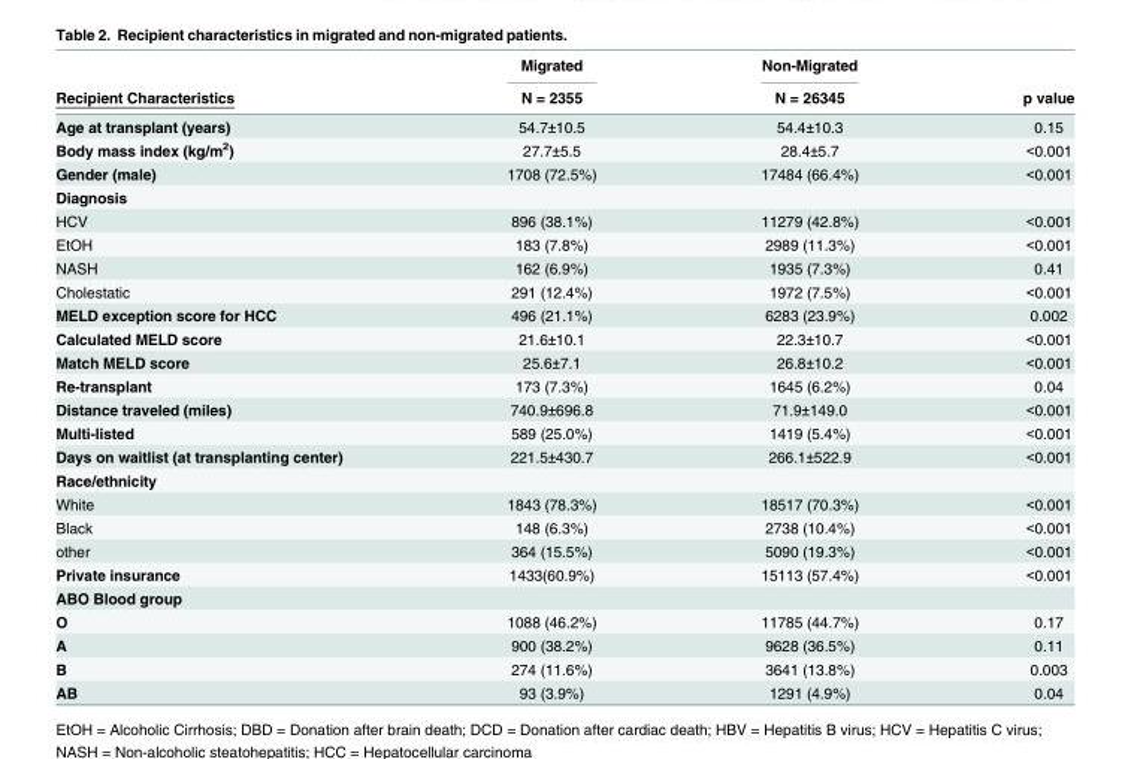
<table><thead><tr><td rowspan="2">Recipient Characteristics</td><td rowspan="2">Migrated N = 2355</td><td rowspan="2">Non-Migrated N = 26345</td><td rowspan="2">p value</td></tr><tr></tr></thead><tbody><tr><td>Age at transplant (years)</td><td>54.7±10.5</td><td>54.4±10.3</td><td>0.15</td></tr><tr><td>Body mass index (kg/m<sup>2</sup>)</td><td>27.7±5.5</td><td>28.4±5.7</td><td>&lt;0.001</td></tr><tr><td>Gender (male)</td><td>1708 (72.5%)</td><td>17484 (66.4%)</td><td>&lt;0.001</td></tr><tr><td colspan="4">Diagnosis</td></tr><tr><td>HCV</td><td>896 (38.1%)</td><td>11279 (42.8%)</td><td>&lt;0.001</td></tr><tr><td>EtOH</td><td>183 (7.8%)</td><td>2989 (11.3%)</td><td>&lt;0.001</td></tr><tr><td>NASH</td><td>162 (6.9%)</td><td>1935 (7.3%)</td><td>0.41</td></tr><tr><td>Cholestatic</td><td>291 (12.4%)</td><td>1972 (7.5%)</td><td>&lt;0.001</td></tr><tr><td>MELD exception score for HCC</td><td>496 (21.1%)</td><td>6283 (23.9%)</td><td>0.002</td></tr><tr><td>Calculated MELD score</td><td>21.6±10.1</td><td>22.3±10.7</td><td>&lt;0.001</td></tr><tr><td>Match MELD score</td><td>25.6±7.1</td><td>26.8±10.2</td><td>&lt;0.001</td></tr><tr><td>Re-transplant</td><td>173 (7.3%)</td><td>1645 (6.2%)</td><td>0.04</td></tr><tr><td>Distance traveled (miles)</td><td>740.9±696.8</td><td>71.9±149.0</td><td>&lt;0.001</td></tr><tr><td>Multi-listed</td><td>589 (25.0%)</td><td>1419 (5.4%)</td><td>&lt;0.001</td></tr><tr><td>Days on waitlist (at transplanting center)</td><td>221.5±430.7</td><td>266.1±522.9</td><td>&lt;0.001</td></tr><tr><td colspan="4">Race/ethnicity</td></tr><tr><td>White</td><td>1843 (78.3%)</td><td>18517 (70.3%)</td><td>&lt;0.001</td></tr><tr><td>Black</td><td>148 (6.3%)</td><td>2738 (10.4%)</td><td>&lt;0.001</td></tr><tr><td>other</td><td>364 (15.5%)</td><td>5090 (19.3%)</td><td>&lt;0.001</td></tr><tr><td>Private insurance</td><td>1433(60.9%)</td><td>15113 (57.4%)</td><td>&lt;0.001</td></tr><tr><td colspan="4">ABO Blood group</td></tr><tr><td>O</td><td>1088 (46.2%)</td><td>11785 (44.7%)</td><td>0.17</td></tr><tr><td>A</td><td>900 (38.2%)</td><td>9628 (36.5%)</td><td>0.11</td></tr><tr><td>B</td><td>274 (11.6%)</td><td>3641 (13.8%)</td><td>0.003</td></tr><tr><td>AB</td><td>93 (3.9%)</td><td>1291 (4.9%)</td><td>0.04</td></tr></tbody></table>